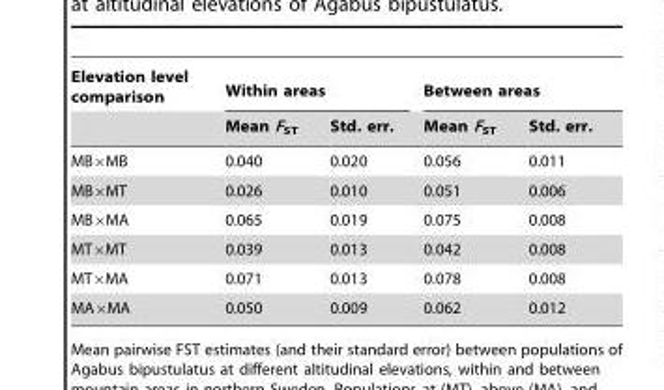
<table><thead><tr><td rowspan="2">Elevation level comparison</td><td colspan="2">Within areas</td><td colspan="2">Between areas</td></tr><tr><td>Mean F<sub>ST</sub></td><td>Std. err.</td><td>Mean F<sub>ST</sub></td><td>Std. err.</td></tr></thead><tbody><tr><td>MB×MB</td><td>0.040</td><td>0.020</td><td>0.056</td><td>0.011</td></tr><tr><td>MB×MT</td><td>0.026</td><td>0.010</td><td>0.051</td><td>0.006</td></tr><tr><td>MB×MA</td><td>0.065</td><td>0.019</td><td>0.075</td><td>0.008</td></tr><tr><td>MT×MT</td><td>0.039</td><td>0.013</td><td>0.042</td><td>0.008</td></tr><tr><td>MT×MA</td><td>0.071</td><td>0.013</td><td>0.078</td><td>0.008</td></tr><tr><td>MA×MA</td><td>0.050</td><td>0.009</td><td>0.062</td><td>0.012</td></tr></tbody></table>